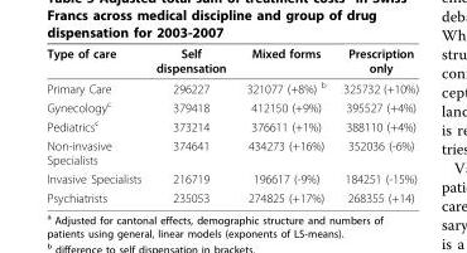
<table><thead><tr><td>Type of care</td><td>Self dispensation</td><td>Mixed forms</td><td>Prescription only</td></tr></thead><tbody><tr><td>Primary Care</td><td>296227</td><td>321077 (+8%) <sup>b</sup></td><td>325732 (+10%)</td></tr><tr><td>Gynecology<sup>c</sup></td><td>379418</td><td>412150 (+9%)</td><td>395527 (+4%)</td></tr><tr><td>Pediatrics<sup>c</sup></td><td>373214</td><td>376611 (+1%)</td><td>388110 (+4%)</td></tr><tr><td>Non-invasive Specialists</td><td>374641</td><td>434273 (+16%)</td><td>352036 (-6%)</td></tr><tr><td>Invasive Specialists</td><td>216719</td><td>196617 (-9%)</td><td>184251 (-15%)</td></tr><tr><td>Psychiatrists</td><td>235053</td><td>274825 (+17%)</td><td>268355 (+14)</td></tr></tbody></table>